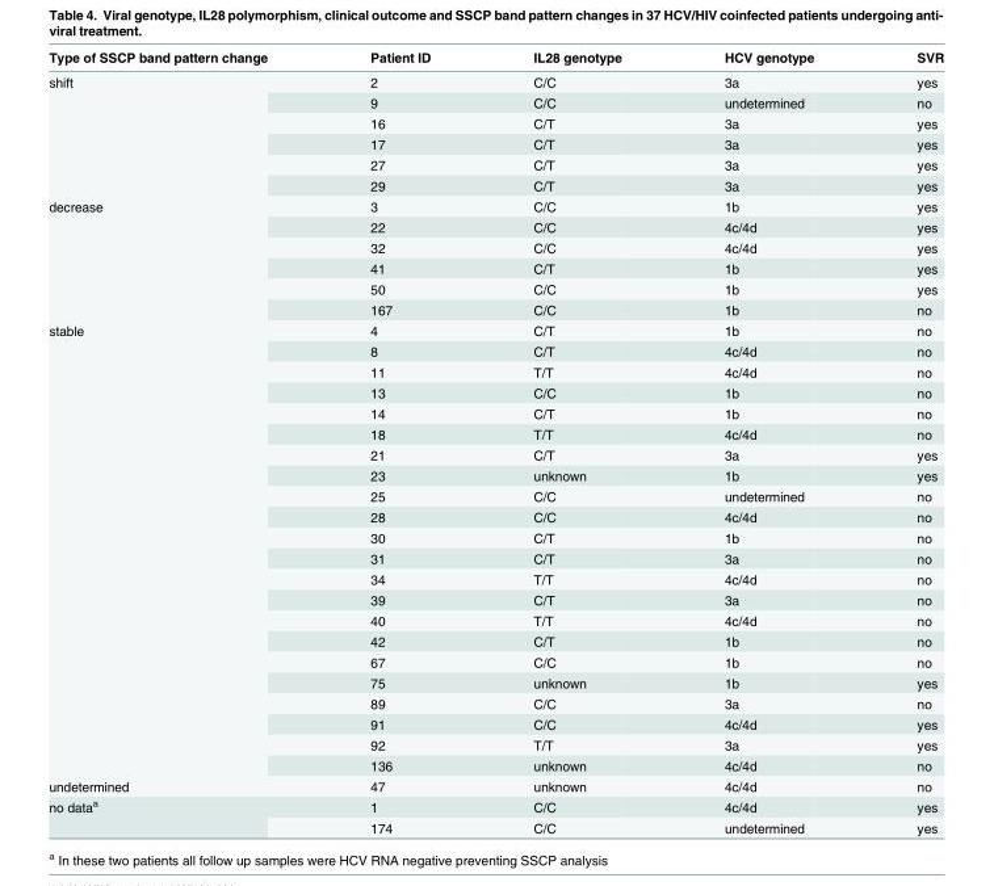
<table><thead><tr><td>Type of SSCP band pattern change</td><td>Patient ID</td><td>IL28 genotype</td><td>HCV genotype</td><td>SVR</td></tr></thead><tbody><tr><td rowspan="6">shift</td><td>2</td><td>C/C</td><td>3a</td><td>yes</td></tr><tr><td>9</td><td>C/C</td><td>undetermined</td><td>no</td></tr><tr><td>16</td><td>C/T</td><td>3a</td><td>yes</td></tr><tr><td>17</td><td>C/T</td><td>3a</td><td>yes</td></tr><tr><td>27</td><td>C/T</td><td>3a</td><td>yes</td></tr><tr><td>29</td><td>C/T</td><td>3a</td><td>yes</td></tr><tr><td rowspan="6">decrease</td><td>3</td><td>C/C</td><td>1b</td><td>yes</td></tr><tr><td>22</td><td>C/C</td><td>4c/4d</td><td>yes</td></tr><tr><td>32</td><td>C/C</td><td>4c/4d</td><td>yes</td></tr><tr><td>41</td><td>C/T</td><td>1b</td><td>yes</td></tr><tr><td>50</td><td>C/C</td><td>1b</td><td>yes</td></tr><tr><td>167</td><td>C/C</td><td>1b</td><td>no</td></tr><tr><td rowspan="22">stable</td><td>4</td><td>C/T</td><td>1b</td><td>no</td></tr><tr><td>8</td><td>C/T</td><td>4c/4d</td><td>no</td></tr><tr><td>11</td><td>T/T</td><td>4c/4d</td><td>no</td></tr><tr><td>13</td><td>C/C</td><td>1b</td><td>no</td></tr><tr><td>14</td><td>C/T</td><td>1b</td><td>no</td></tr><tr><td>18</td><td>T/T</td><td>4c/4d</td><td>no</td></tr><tr><td>21</td><td>C/T</td><td>3a</td><td>yes</td></tr><tr><td>23</td><td>unknown</td><td>1b</td><td>yes</td></tr><tr><td>25</td><td>C/C</td><td>undetermined</td><td>no</td></tr><tr><td>28</td><td>C/C</td><td>4c/4d</td><td>no</td></tr><tr><td>30</td><td>C/T</td><td>1b</td><td>no</td></tr><tr><td>31</td><td>C/T</td><td>3a</td><td>no</td></tr><tr><td>34</td><td>T/T</td><td>4c/4d</td><td>no</td></tr><tr><td>39</td><td>C/T</td><td>3a</td><td>no</td></tr><tr><td>40</td><td>T/T</td><td>4c/4d</td><td>no</td></tr><tr><td>42</td><td>C/T</td><td>1b</td><td>no</td></tr><tr><td>67</td><td>C/C</td><td>1b</td><td>no</td></tr><tr><td>75</td><td>unknown</td><td>1b</td><td>yes</td></tr><tr><td>89</td><td>C/C</td><td>3a</td><td>no</td></tr><tr><td>91</td><td>C/C</td><td>4c/4d</td><td>yes</td></tr><tr><td>92</td><td>T/T</td><td>3a</td><td>yes</td></tr><tr><td>136</td><td>unknown</td><td>4c/4d</td><td>no</td></tr><tr><td>undetermined</td><td>47</td><td>unknown</td><td>4c/4d</td><td>no</td></tr><tr><td rowspan="2">no data<sup>a</sup></td><td>1</td><td>C/C</td><td>4c/4d</td><td>yes</td></tr><tr><td>174</td><td>C/C</td><td>undetermined</td><td>yes</td></tr></tbody></table>